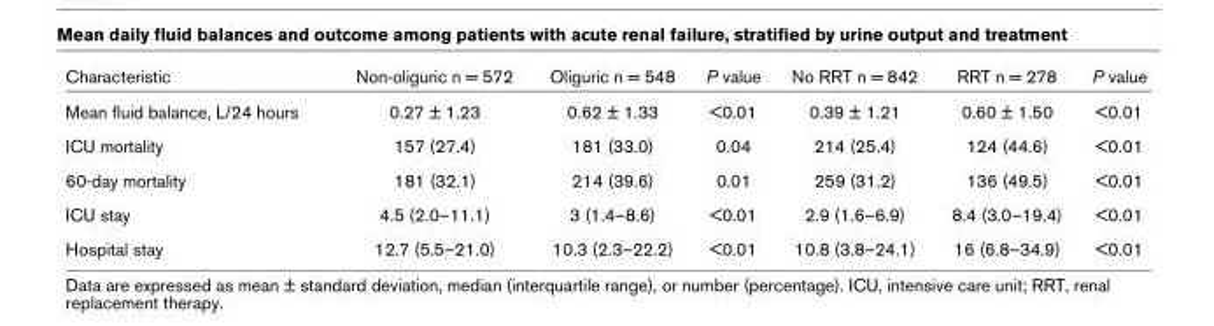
<table><thead><tr><td>Characteristic</td><td>Non-oliguric n = 572</td><td>Oliguric n = 548</td><td>P value</td><td>No RRT n = 842</td><td>RRT n = 278</td><td>P value</td></tr></thead><tbody><tr><td>Mean fluid balance, L/24 hours</td><td>0.27 ± 1.23</td><td>0.62 ± 1.33</td><td>&lt;0.01</td><td>0.39 ± 1.21</td><td>0.60 ± 1.50</td><td>&lt;0.01</td></tr><tr><td>ICU mortality</td><td>157 (27.4)</td><td>181 (33.0)</td><td>0.04</td><td>214 (25.4)</td><td>124 (44.6)</td><td>&lt;0.01</td></tr><tr><td>60-day mortality</td><td>181 (32.1)</td><td>214 (39.6)</td><td>0.01</td><td>259 (31.2)</td><td>136 (49.5)</td><td>&lt;0.01</td></tr><tr><td>ICU stay</td><td>4.5 (2.0–11.1)</td><td>3 (1.4–8.6)</td><td>&lt;0.01</td><td>2.9 (1.6–6.9)</td><td>8.4 (3.0–19.4)</td><td>&lt;0.01</td></tr><tr><td>Hospital stay</td><td>12.7 (5.5–21.0)</td><td>10.3 (2.3–22.2)</td><td>&lt;0.01</td><td>10.8 (3.8–24.1)</td><td>16 (6.8–34.9)</td><td>&lt;0.01</td></tr></tbody></table>